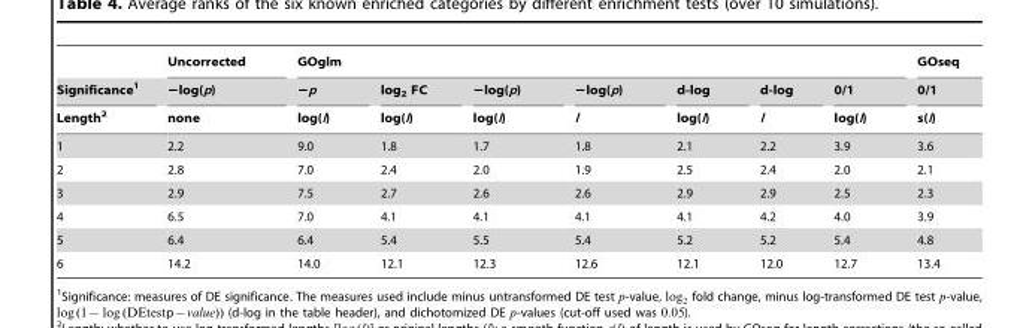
<table><thead><tr><td rowspan="3">Significance<sup>1</sup> Length<sup>2</sup></td><td rowspan="3">Uncorrected −log(p) none</td><td colspan="7">GOglm</td><td rowspan="3">GOseq 0/1 s(l)</td></tr><tr><td rowspan="2">−p log(l)</td><td rowspan="2">log<sub>2</sub> FC log(l)</td><td rowspan="2">−log(p) log(l)</td><td rowspan="2">−log(p) l</td><td rowspan="2">d-log log(l)</td><td rowspan="2">d-log l</td><td rowspan="2">0/1 log(l)</td></tr><tr></tr></thead><tbody><tr><td>1</td><td>2.2</td><td>9.0</td><td>1.8</td><td>1.7</td><td>1.8</td><td>2.1</td><td>2.2</td><td>3.9</td><td>3.6</td></tr><tr><td>2</td><td>2.8</td><td>7.0</td><td>2.4</td><td>2.0</td><td>1.9</td><td>2.5</td><td>2.4</td><td>2.0</td><td>2.1</td></tr><tr><td>3</td><td>2.9</td><td>7.5</td><td>2.7</td><td>2.6</td><td>2.6</td><td>2.9</td><td>2.9</td><td>2.5</td><td>2.3</td></tr><tr><td>4</td><td>6.5</td><td>7.0</td><td>4.1</td><td>4.1</td><td>4.1</td><td>4.1</td><td>4.2</td><td>4.0</td><td>3.9</td></tr><tr><td>5</td><td>6.4</td><td>6.4</td><td>5.4</td><td>5.5</td><td>5.4</td><td>5.2</td><td>5.2</td><td>5.4</td><td>4.8</td></tr><tr><td>6</td><td>14.2</td><td>14.0</td><td>12.1</td><td>12.3</td><td>12.6</td><td>12.1</td><td>12.0</td><td>12.7</td><td>13.4</td></tr></tbody></table>